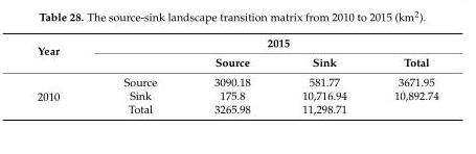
<table><thead><tr><td rowspan="2">Year</td><td colspan="4">2015</td></tr><tr><td></td><td>Source</td><td>Sink</td><td>Total</td></tr></thead><tbody><tr><td rowspan="3">2010</td><td>Source</td><td>3090.18</td><td>581.77</td><td>3671.95</td></tr><tr><td>Sink</td><td>175.8</td><td>10,716.94</td><td>10,892.74</td></tr><tr><td>Total</td><td>3265.98</td><td>11,298.71</td><td></td></tr></tbody></table>